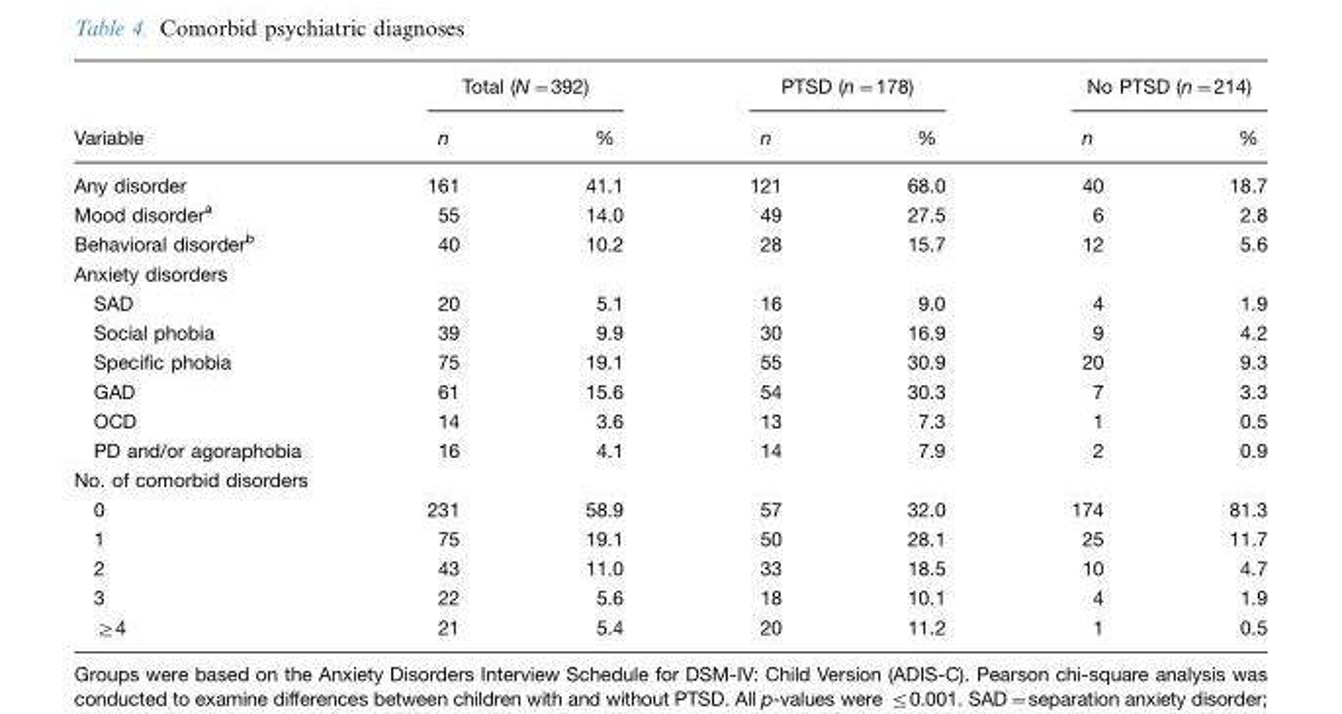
<table><thead><tr><td rowspan="2">Variable</td><td colspan="2">Total (N=392)</td><td colspan="2">PTSD (n=178)</td><td colspan="2">No PTSD (n=214)</td></tr><tr><td>n</td><td>%</td><td>n</td><td>%</td><td>n</td><td>%</td></tr></thead><tbody><tr><td>Any disorder</td><td>161</td><td>41.1</td><td>121</td><td>68.0</td><td>40</td><td>18.7</td></tr><tr><td>Mood disorder<sup>a</sup></td><td>55</td><td>14.0</td><td>49</td><td>27.5</td><td>6</td><td>2.8</td></tr><tr><td>Behavioral disorder<sup>b</sup></td><td>40</td><td>10.2</td><td>28</td><td>15.7</td><td>12</td><td>5.6</td></tr><tr><td colspan="7">Anxiety disorders</td></tr><tr><td>SAD</td><td>20</td><td>5.1</td><td>16</td><td>9.0</td><td>4</td><td>1.9</td></tr><tr><td>Social phobia</td><td>39</td><td>9.9</td><td>30</td><td>16.9</td><td>9</td><td>4.2</td></tr><tr><td>Specific phobia</td><td>75</td><td>19.1</td><td>55</td><td>30.9</td><td>20</td><td>9.3</td></tr><tr><td>GAD</td><td>61</td><td>15.6</td><td>54</td><td>30.3</td><td>7</td><td>3.3</td></tr><tr><td>OCD</td><td>14</td><td>3.6</td><td>13</td><td>7.3</td><td>1</td><td>0.5</td></tr><tr><td>PD and/or agoraphobia</td><td>16</td><td>4.1</td><td>14</td><td>7.9</td><td>2</td><td>0.9</td></tr><tr><td colspan="7">No. of comorbid disorders</td></tr><tr><td>0</td><td>231</td><td>58.9</td><td>57</td><td>32.0</td><td>174</td><td>81.3</td></tr><tr><td>1</td><td>75</td><td>19.1</td><td>50</td><td>28.1</td><td>25</td><td>11.7</td></tr><tr><td>2</td><td>43</td><td>11.0</td><td>33</td><td>18.5</td><td>10</td><td>4.7</td></tr><tr><td>3</td><td>22</td><td>5.6</td><td>18</td><td>10.1</td><td>4</td><td>1.9</td></tr><tr><td>≥4</td><td>21</td><td>5.4</td><td>20</td><td>11.2</td><td>1</td><td>0.5</td></tr></tbody></table>